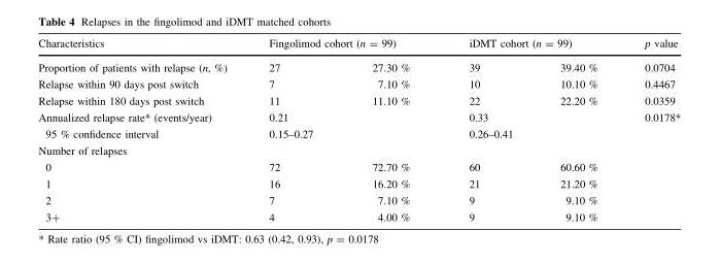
<table><thead><tr><td rowspan="2">Characteristics Proportion of patients with relapse (n, %)</td><td colspan="2">Fingolimod cohort (n = 99)</td><td colspan="2">iDMT cohort (n = 99)</td><td rowspan="2">p value 0.0704</td></tr><tr><td>27</td><td>27.30 %</td><td>39</td><td>39.40 %</td></tr></thead><tbody><tr><td>Relapse within 90 days post switch</td><td>7</td><td>7.10 %</td><td>10</td><td>10.10 %</td><td>0.4467</td></tr><tr><td>Relapse within 180 days post switch</td><td>11</td><td>11.10 %</td><td>22</td><td>22.20 %</td><td>0.0359</td></tr><tr><td>Annualized relapse rate* (events/year)</td><td>0.21</td><td></td><td>0.33</td><td></td><td>0.0178*</td></tr><tr><td>95 % confidence interval</td><td>0.15–0.27</td><td></td><td>0.26–0.41</td><td></td><td></td></tr><tr><td colspan="6">Number of relapses</td></tr><tr><td>0</td><td>72</td><td>72.70 %</td><td>60</td><td>60.60 %</td><td></td></tr><tr><td>1</td><td>16</td><td>16.20 %</td><td>21</td><td>21.20 %</td><td></td></tr><tr><td>2</td><td>7</td><td>7.10 %</td><td>9</td><td>9.10 %</td><td></td></tr><tr><td>3+</td><td>4</td><td>4.00 %</td><td>9</td><td>9.10 %</td><td></td></tr></tbody></table>